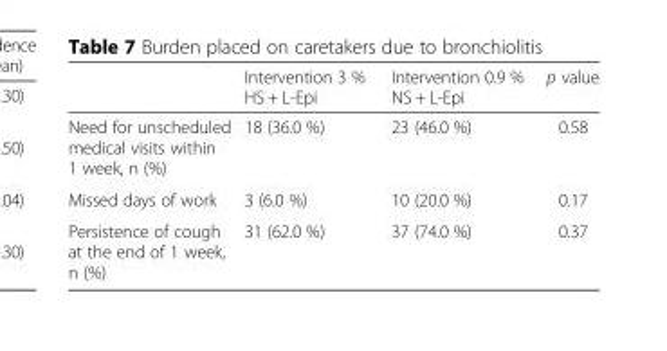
<table><thead><tr><td></td><td>Intervention 3 % HS + L-Epi</td><td>Intervention 0.9 % NS + L-Epi</td><td>p value</td></tr></thead><tbody><tr><td>Need for unscheduled medical visits within 1 week, n (%)</td><td>18 (36.0 %)</td><td>23 (46.0 %)</td><td>0.58</td></tr><tr><td>Missed days of work</td><td>3 (6.0 %)</td><td>10 (20.0 %)</td><td>0.17</td></tr><tr><td>Persistence of cough at the end of 1 week, n (%)</td><td>31 (62.0 %)</td><td>37 (74.0 %)</td><td>0.37</td></tr></tbody></table>